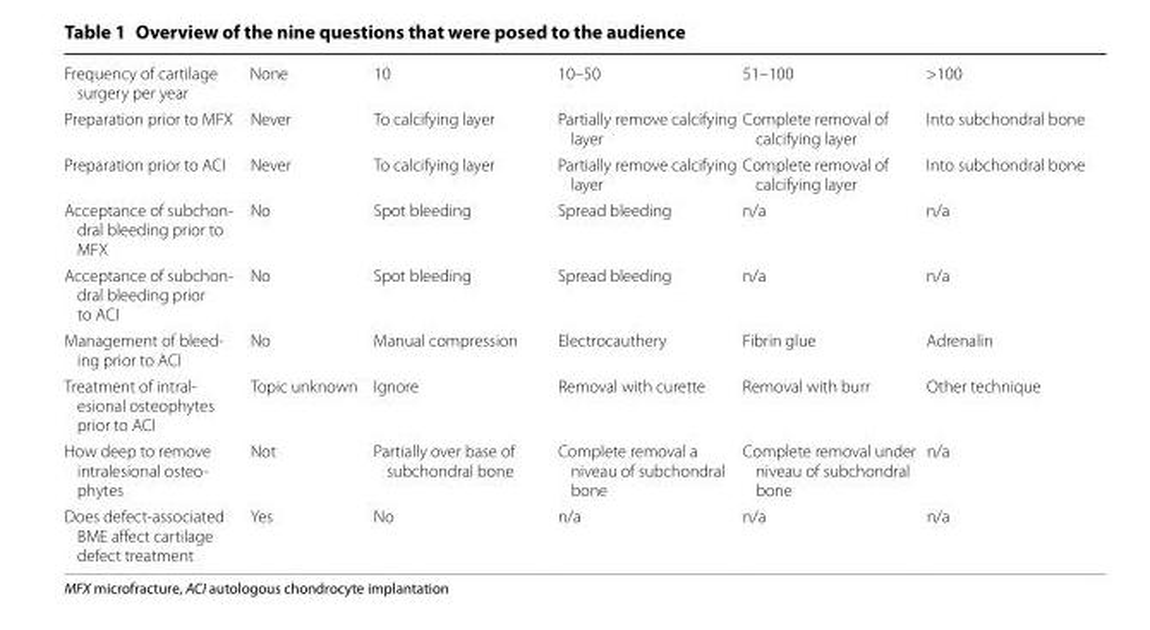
<table><tbody><tr><td>Frequency of cartilage surgery per year</td><td>None</td><td>10</td><td>10–50</td><td>51–100</td><td>&gt;100</td></tr><tr><td>Preparation prior to MFX</td><td>Never</td><td>To calcifying layer</td><td>Partially remove calcifying layer</td><td>Complete removal of calcifying layer</td><td>Into subchondral bone</td></tr><tr><td>Preparation prior to ACI</td><td>Never</td><td>To calcifying layer</td><td>Partially remove calcifying layer</td><td>Complete removal of calcifying layer</td><td>Into subchondral bone</td></tr><tr><td>Acceptance of subchon- dral bleeding prior to MFX</td><td>No</td><td>Spot bleeding</td><td>Spread bleeding</td><td>n/a</td><td>n/a</td></tr><tr><td>Acceptance of subchon- dral bleeding prior to ACI</td><td>No</td><td>Spot bleeding</td><td>Spread bleeding</td><td>n/a</td><td>n/a</td></tr><tr><td>Management of bleed- ing prior to ACI</td><td>No</td><td>Manual compression</td><td>Electrocauthery</td><td>Fibrin glue</td><td>Adrenalin</td></tr><tr><td>Treatment of intral- esional osteophytes prior to ACI</td><td>Topic unknown</td><td>Ignore</td><td>Removal with curette</td><td>Removal with burr</td><td>Other technique</td></tr><tr><td>How deep to remove intralesional osteo- phytes</td><td>Not</td><td>Partially over base of subchondral bone</td><td>Complete removal a niveau of subchondral bone</td><td>Complete removal under niveau of subchondral bone</td><td>n/a</td></tr><tr><td>Does defect-associated BME affect cartilage defect treatment</td><td>Yes</td><td>No</td><td>n/a</td><td>n/a</td><td>n/a</td></tr></tbody></table>